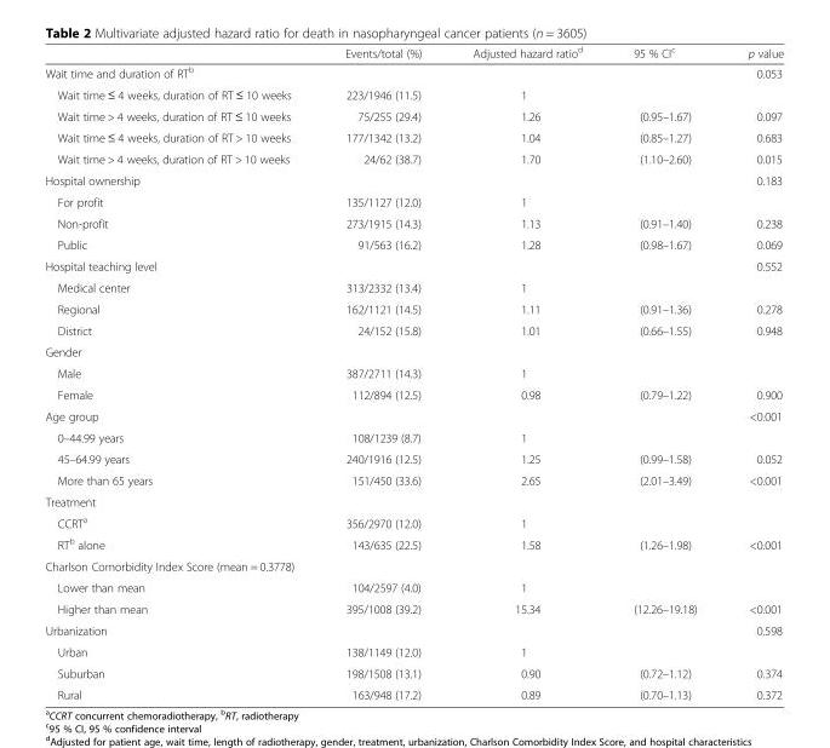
<table><thead><tr><td></td><td>Events/total (%)</td><td>Adjusted hazard ratio<sup>d</sup></td><td>95 % CI<sup>c</sup></td><td>p value</td></tr></thead><tbody><tr><td>Wait time and duration of RT<sup>b</sup></td><td></td><td></td><td></td><td>0.053</td></tr><tr><td>Wait time ≤ 4 weeks, duration of RT ≤ 10 weeks</td><td>223/1946 (11.5)</td><td>1</td><td></td><td></td></tr><tr><td>Wait time &gt; 4 weeks, duration of RT ≤ 10 weeks</td><td>75/255 (29.4)</td><td>1.26</td><td>(0.95–1.67)</td><td>0.097</td></tr><tr><td>Wait time ≤ 4 weeks, duration of RT &gt; 10 weeks</td><td>177/1342 (13.2)</td><td>1.04</td><td>(0.85–1.27)</td><td>0.683</td></tr><tr><td>Wait time &gt; 4 weeks, duration of RT &gt; 10 weeks</td><td>24/62 (38.7)</td><td>1.70</td><td>(1.10–2.60)</td><td>0.015</td></tr><tr><td>Hospital ownership</td><td></td><td></td><td></td><td>0.183</td></tr><tr><td>For profit</td><td>135/1127 (12.0)</td><td>1</td><td></td><td></td></tr><tr><td>Non-profit</td><td>273/1915 (14.3)</td><td>1.13</td><td>(0.91–1.40)</td><td>0.238</td></tr><tr><td>Public</td><td>91/563 (16.2)</td><td>1.28</td><td>(0.98–1.67)</td><td>0.069</td></tr><tr><td>Hospital teaching level</td><td></td><td></td><td></td><td>0.552</td></tr><tr><td>Medical center</td><td>313/2332 (13.4)</td><td>1</td><td></td><td></td></tr><tr><td>Regional</td><td>162/1121 (14.5)</td><td>1.11</td><td>(0.91–1.36)</td><td>0.278</td></tr><tr><td>District</td><td>24/152 (15.8)</td><td>1.01</td><td>(0.66–1.55)</td><td>0.948</td></tr><tr><td colspan="5">Gender</td></tr><tr><td>Male</td><td>387/2711 (14.3)</td><td>1</td><td></td><td></td></tr><tr><td>Female</td><td>112/894 (12.5)</td><td>0.98</td><td>(0.79–1.22)</td><td>0.900</td></tr><tr><td>Age group</td><td></td><td></td><td></td><td>&lt;0.001</td></tr><tr><td>0–44.99 years</td><td>108/1239 (8.7)</td><td>1</td><td></td><td></td></tr><tr><td>45–64.99 years</td><td>240/1916 (12.5)</td><td>1.25</td><td>(0.99–1.58)</td><td>0.052</td></tr><tr><td>More than 65 years</td><td>151/450 (33.6)</td><td>2.65</td><td>(2.01–3.49)</td><td>&lt;0.001</td></tr><tr><td colspan="5">Treatment</td></tr><tr><td>CCRT<sup>a</sup></td><td>356/2970 (12.0)</td><td>1</td><td></td><td></td></tr><tr><td>RT<sup>b</sup> alone</td><td>143/635 (22.5)</td><td>1.58</td><td>(1.26–1.98)</td><td>&lt;0.001</td></tr><tr><td colspan="5">Charlson Comorbidity Index Score (mean = 0.3778)</td></tr><tr><td>Lower than mean</td><td>104/2597 (4.0)</td><td>1</td><td></td><td></td></tr><tr><td>Higher than mean</td><td>395/1008 (39.2)</td><td>15.34</td><td>(12.26–19.18)</td><td>&lt;0.001</td></tr><tr><td>Urbanization</td><td></td><td></td><td></td><td>0.598</td></tr><tr><td>Urban</td><td>138/1149 (12.0)</td><td>1</td><td></td><td></td></tr><tr><td>Suburban</td><td>198/1508 (13.1)</td><td>0.90</td><td>(0.72–1.12)</td><td>0.374</td></tr><tr><td>Rural</td><td>163/948 (17.2)</td><td>0.89</td><td>(0.70–1.13)</td><td>0.372</td></tr></tbody></table>